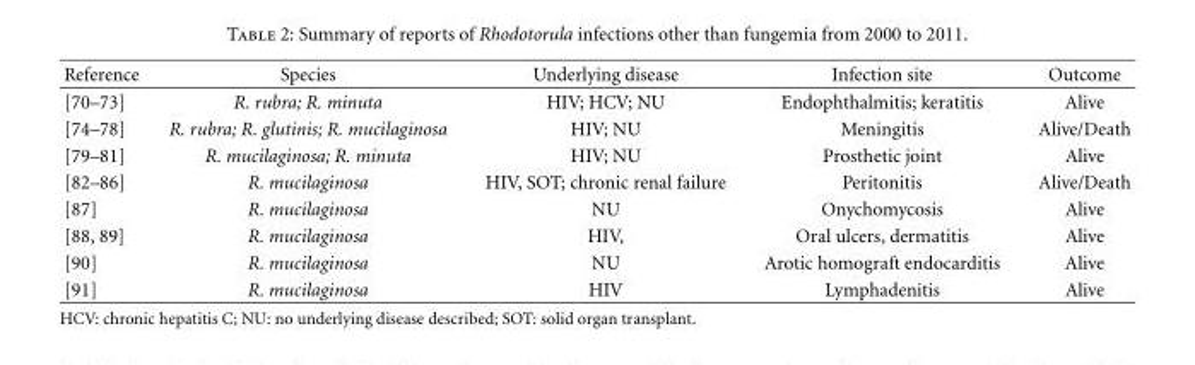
<table><thead><tr><td>Reference</td><td>Species</td><td>Underlying disease</td><td>Infection site</td><td>Outcome</td></tr></thead><tbody><tr><td>[70–73]</td><td>R. rubra; R. minuta</td><td>HIV; HCV; NU</td><td>Endophthalmitis; keratitis</td><td>Alive</td></tr><tr><td>[74–78]</td><td>R. rubra; R. glutinis; R. mucilaginosa</td><td>HIV; NU</td><td>Meningitis</td><td>Alive/Death</td></tr><tr><td>[79–81]</td><td>R. mucilaginosa; R. minuta</td><td>HIV; NU</td><td>Prosthetic joint</td><td>Alive</td></tr><tr><td>[82–86]</td><td>R. mucilaginosa</td><td>HIV, SOT; chronic renal failure</td><td>Peritonitis</td><td>Alive/Death</td></tr><tr><td>[87]</td><td>R. mucilaginosa</td><td>NU</td><td>Onychomycosis</td><td>Alive</td></tr><tr><td>[88, 89]</td><td>R. mucilaginosa</td><td>HIV,</td><td>Oral ulcers, dermatitis</td><td>Alive</td></tr><tr><td>[90]</td><td>R. mucilaginosa</td><td>NU</td><td>Arotic homograft endocarditis</td><td>Alive</td></tr><tr><td>[91]</td><td>R. mucilaginosa</td><td>HIV</td><td>Lymphadenitis</td><td>Alive</td></tr></tbody></table>